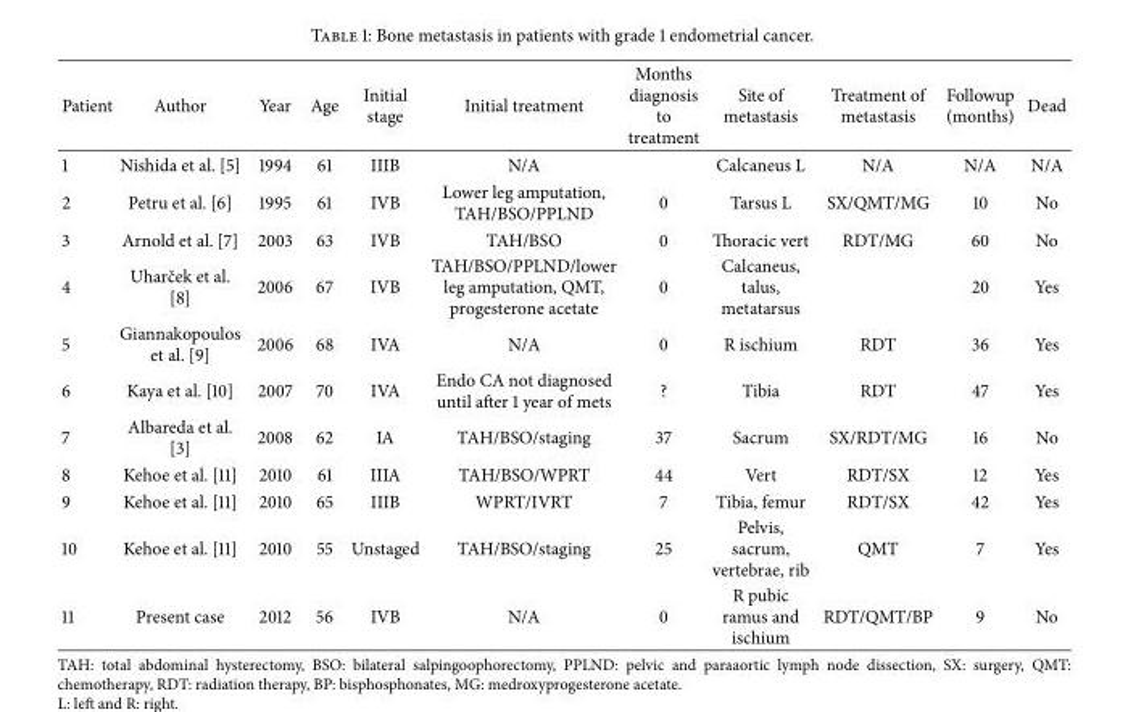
<table><thead><tr><td>Patient</td><td>Author</td><td>Year</td><td>Age</td><td>Initial stage</td><td>Initial treatment</td><td>Months diagnosis to treatment</td><td>Site of metastasis</td><td>Treatment of metastasis</td><td>Followup (months)</td><td>Dead</td></tr></thead><tbody><tr><td>1</td><td>Nishida et al. [5]</td><td>1994</td><td>61</td><td>IIIB</td><td>N/A</td><td></td><td>Calcaneus L</td><td>N/A</td><td>N/A</td><td>N/A</td></tr><tr><td>2</td><td>Petru et al. [6]</td><td>1995</td><td>61</td><td>IVB</td><td>Lower leg amputation, TAH/BSO/PPLND</td><td>0</td><td>Tarsus L</td><td>SX/QMT/MG</td><td>10</td><td>No</td></tr><tr><td>3</td><td>Arnold et al. [7]</td><td>2003</td><td>63</td><td>IVB</td><td>TAH/BSO</td><td>0</td><td>Thoracic vert</td><td>RDT/MG</td><td>60</td><td>No</td></tr><tr><td>4</td><td>Uharˇcek et al. [8]</td><td>2006</td><td>67</td><td>IVB</td><td>TAH/BSO/PPLND/lower leg amputation, QMT, progesterone acetate</td><td>0</td><td>Calcaneus, talus, metatarsus</td><td></td><td>20</td><td>Yes</td></tr><tr><td>5</td><td>Giannakopoulos et al. [9]</td><td>2006</td><td>68</td><td>IVA</td><td>N/A</td><td>0</td><td>R ischium</td><td>RDT</td><td>36</td><td>Yes</td></tr><tr><td>6</td><td>Kaya et al. [10]</td><td>2007</td><td>70</td><td>IVA</td><td>Endo CA not diagnosed until after 1 year of mets</td><td>?</td><td>Tibia</td><td>RDT</td><td>47</td><td>Yes</td></tr><tr><td>7</td><td>Albareda et al. [3]</td><td>2008</td><td>62</td><td>IA</td><td>TAH/BSO/staging</td><td>37</td><td>Sacrum</td><td>SX/RDT/MG</td><td>16</td><td>No</td></tr><tr><td>8</td><td>Kehoe et al. [11]</td><td>2010</td><td>61</td><td>IIIA</td><td>TAH/BSO/WPRT</td><td>44</td><td>Vert</td><td>RDT/SX</td><td>12</td><td>Yes</td></tr><tr><td>9</td><td>Kehoe et al. [11]</td><td>2010</td><td>65</td><td>IIIB</td><td>WPRT/IVRT</td><td>7</td><td>Tibia, femur</td><td>RDT/SX</td><td>42</td><td>Yes</td></tr><tr><td>10</td><td>Kehoe et al. [11]</td><td>2010</td><td>55</td><td>Unstaged</td><td>TAH/BSO/staging</td><td>25</td><td>Pelvis, sacrum, vertebrae, rib</td><td>QMT</td><td>7</td><td>Yes</td></tr><tr><td>11</td><td>Present case</td><td>2012</td><td>56</td><td>IVB</td><td>N/A</td><td>0</td><td>R pubic ramus and ischium</td><td>RDT/QMT/BP</td><td>9</td><td>No</td></tr></tbody></table>